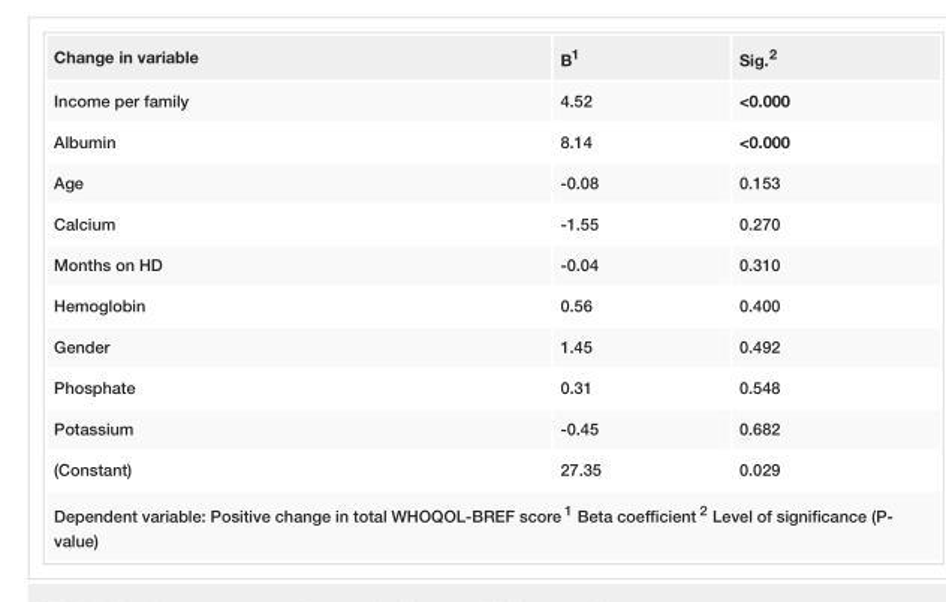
<table><tbody><tr><td>Change in variable</td><td>B<sup>1</sup></td><td>Sig.<sup>2</sup></td></tr><tr><td>Income per family</td><td>4.52</td><td>&lt;0.000</td></tr><tr><td>Albumin</td><td>8.14</td><td>&lt;0.000</td></tr><tr><td>Age</td><td>-0.08</td><td>0.153</td></tr><tr><td>Calcium</td><td>-1.55</td><td>0.270</td></tr><tr><td>Months on HD</td><td>-0.04</td><td>0.310</td></tr><tr><td>Hemoglobin</td><td>0.56</td><td>0.400</td></tr><tr><td>Gender</td><td>1.45</td><td>0.492</td></tr><tr><td>Phosphate</td><td>0.31</td><td>0.548</td></tr><tr><td>Potassium</td><td>-0.45</td><td>0.682</td></tr><tr><td>(Constant)</td><td>27.35</td><td>0.029</td></tr><tr><td colspan="3">Dependent variable: Positive change in total WHOQOL-BREF score <sup>1</sup> Beta coefficient <sup>2</sup> Level of significance (P- value)</td></tr></tbody></table>